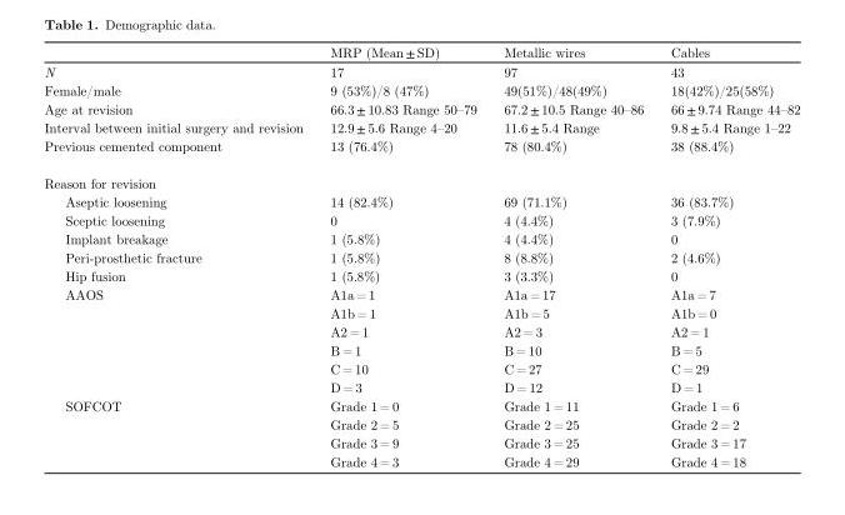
<table><thead><tr><td></td><td>MRP (Mean ± SD)</td><td>Metallic wires</td><td>Cables</td></tr></thead><tbody><tr><td>N</td><td>17</td><td>97</td><td>43</td></tr><tr><td>Female/male</td><td>9 (53%)/8 (47%)</td><td>49(51%)/48(49%)</td><td>18(42%)/25(58%)</td></tr><tr><td>Age at revision</td><td>66.3 ± 10.83 Range 50–79</td><td>67.2 ± 10.5 Range 40–86</td><td>66 ± 9.74 Range 44–82</td></tr><tr><td>Interval between initial surgery and revision</td><td>12.9 ± 5.6 Range 4–20</td><td>11.6 ± 5.4 Range</td><td>9.8 ± 5.4 Range 1–22</td></tr><tr><td>Previous cemented component</td><td>13 (76.4%)</td><td>78 (80.4%)</td><td>38 (88.4%)</td></tr><tr><td colspan="4">Reason for revision</td></tr><tr><td>Aseptic loosening</td><td>14 (82.4%)</td><td>69 (71.1%)</td><td>36 (83.7%)</td></tr><tr><td>Sceptic loosening</td><td>0</td><td>4 (4.4%)</td><td>3 (7.9%)</td></tr><tr><td>Implant breakage</td><td>1 (5.8%)</td><td>4 (4.4%)</td><td>0</td></tr><tr><td>Peri-prosthetic fracture</td><td>1 (5.8%)</td><td>8 (8.8%)</td><td>2 (4.6%)</td></tr><tr><td>Hip fusion</td><td>1 (5.8%)</td><td>3 (3.3%)</td><td>0</td></tr><tr><td rowspan="6">AAOS</td><td>A1a = 1</td><td>A1a = 17</td><td>A1a = 7</td></tr><tr><td>A1b = 1</td><td>A1b = 5</td><td>A1b = 0</td></tr><tr><td>A2 = 1</td><td>A2 = 3</td><td>A2 = 1</td></tr><tr><td>B = 1</td><td>B = 10</td><td>B = 5</td></tr><tr><td>C = 10</td><td>C = 27</td><td>C = 29</td></tr><tr><td>D = 3</td><td>D = 12</td><td>D = 1</td></tr><tr><td rowspan="4">SOFCOT</td><td>Grade 1 = 0</td><td>Grade 1 = 11</td><td>Grade 1 = 6</td></tr><tr><td>Grade 2 = 5</td><td>Grade 2 = 25</td><td>Grade 2 = 2</td></tr><tr><td>Grade 3 = 9</td><td>Grade 3 = 25</td><td>Grade 3 = 17</td></tr><tr><td>Grade 4 = 3</td><td>Grade 4 = 29</td><td>Grade 4 = 18</td></tr></tbody></table>